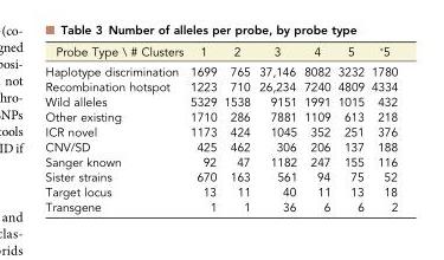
<table><thead><tr><td>Probe Type \ # Clusters</td><td>1</td><td>2</td><td>3</td><td>4</td><td>5</td><td>˃5</td></tr></thead><tbody><tr><td>Haplotype discrimination</td><td>1699</td><td>765</td><td>37,146</td><td>8082</td><td>3232</td><td>1780</td></tr><tr><td>Recombination hotspot</td><td>1223</td><td>710</td><td>26,234</td><td>7240</td><td>4809</td><td>4334</td></tr><tr><td>Wild alleles</td><td>5329</td><td>1538</td><td>9151</td><td>1991</td><td>1015</td><td>432</td></tr><tr><td>Other existing</td><td>1710</td><td>286</td><td>7881</td><td>1109</td><td>613</td><td>218</td></tr><tr><td>ICR novel</td><td>1173</td><td>424</td><td>1045</td><td>352</td><td>251</td><td>376</td></tr><tr><td>CNV/SD</td><td>425</td><td>462</td><td>306</td><td>206</td><td>137</td><td>188</td></tr><tr><td>Sanger known</td><td>92</td><td>47</td><td>1182</td><td>247</td><td>155</td><td>116</td></tr><tr><td>Sister strains</td><td>670</td><td>163</td><td>561</td><td>94</td><td>75</td><td>52</td></tr><tr><td>Target locus</td><td>13</td><td>11</td><td>40</td><td>11</td><td>13</td><td>18</td></tr><tr><td>Transgene</td><td>1</td><td>1</td><td>36</td><td>6</td><td>6</td><td>2</td></tr></tbody></table>